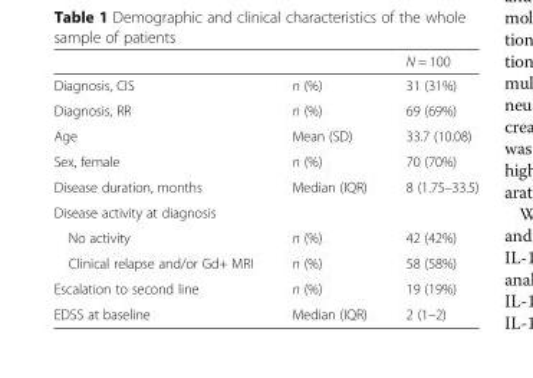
<table><thead><tr><td></td><td></td><td>N = 100</td></tr></thead><tbody><tr><td>Diagnosis, CIS</td><td>n (%)</td><td>31 (31%)</td></tr><tr><td>Diagnosis, RR</td><td>n (%)</td><td>69 (69%)</td></tr><tr><td>Age</td><td>Mean (SD)</td><td>33.7 (10.08)</td></tr><tr><td>Sex, female</td><td>n (%)</td><td>70 (70%)</td></tr><tr><td>Disease duration, months</td><td>Median (IQR)</td><td>8 (1.75–33.5)</td></tr><tr><td colspan="3">Disease activity at diagnosis</td></tr><tr><td>No activity</td><td>n (%)</td><td>42 (42%)</td></tr><tr><td>Clinical relapse and/or Gd+ MRI</td><td>n (%)</td><td>58 (58%)</td></tr><tr><td>Escalation to second line</td><td>n (%)</td><td>19 (19%)</td></tr><tr><td>EDSS at baseline</td><td>Median (IQR)</td><td>2 (1–2)</td></tr></tbody></table>